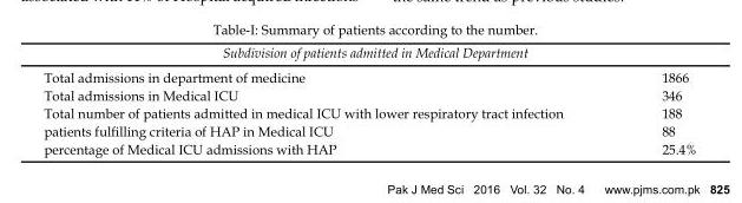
<table><thead><tr><td colspan="2">Subdivision of patients admitted in Medical Department</td></tr><tr><td>Total admissions in department of medicine</td><td>1866</td></tr></thead><tbody><tr><td>Total admissions in Medical ICU</td><td>346</td></tr><tr><td>Total number of patients admitted in medical ICU with lower respiratory tract infection</td><td>188</td></tr><tr><td>patients fulfilling criteria of HAP in Medical ICU</td><td>88</td></tr><tr><td>percentage of Medical ICU admissions with HAP</td><td>25.4%</td></tr></tbody></table>